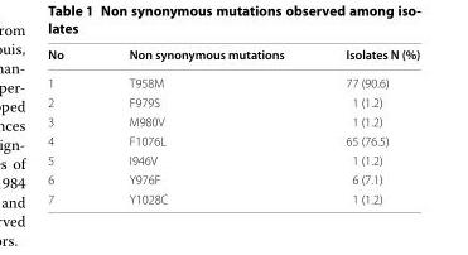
<table><thead><tr><td>No</td><td>Non synonymous mutations</td><td>Isolates N (%)</td></tr></thead><tbody><tr><td>1</td><td>T958M</td><td>77 (90.6)</td></tr><tr><td>2</td><td>F979S</td><td>1 (1.2)</td></tr><tr><td>3</td><td>M980V</td><td>1 (1.2)</td></tr><tr><td>4</td><td>F1076L</td><td>65 (76.5)</td></tr><tr><td>5</td><td>I946V</td><td>1 (1.2)</td></tr><tr><td>6</td><td>Y976F</td><td>6 (7.1)</td></tr><tr><td>7</td><td>Y1028C</td><td>1 (1.2)</td></tr></tbody></table>